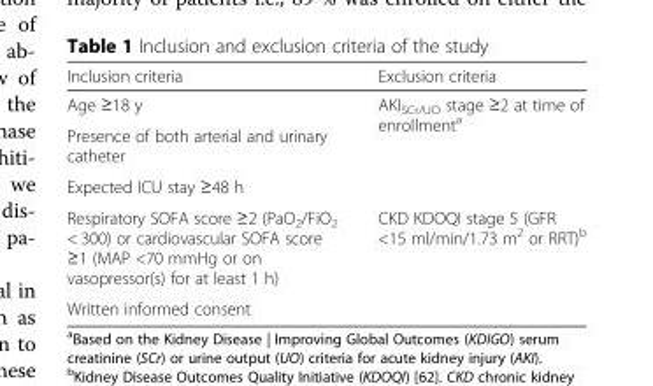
<table><thead><tr><td>Inclusion criteria</td><td>Exclusion criteria</td></tr></thead><tbody><tr><td>Age ≥18 y</td><td rowspan="3">AKI<sub>SCr/UO</sub> stage ≥2 at time of enrollment<sup>a</sup></td></tr><tr><td>Presence of both arterial and urinary catheter</td></tr><tr><td>Expected ICU stay ≥48 h</td></tr><tr><td>Respiratory SOFA score ≥2 (PaO<sub>2</sub>/FiO<sub>2</sub> &lt; 300) or cardiovascular SOFA score ≥1 (MAP &lt;70 mmHg or on vasopressor(s) for at least 1 h)</td><td rowspan="2">CKD KDOQI stage 5 (GFR &lt;15 ml/min/1.73 m<sup>2</sup> or RRT)<sup>b</sup></td></tr><tr><td>Written informed consent</td></tr></tbody></table>